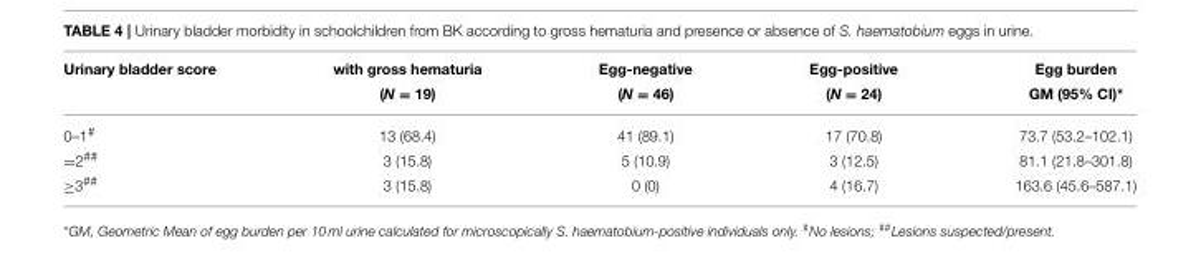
<table><thead><tr><td rowspan="2">Urinary bladder score</td><td rowspan="2">with gross hematuria (N = 19)</td><td rowspan="2">Egg-negative (N = 46)</td><td rowspan="2">Egg-positive (N = 24)</td><td rowspan="2">Egg burden GM (95% CI)*</td></tr><tr></tr></thead><tbody><tr><td>0–1<sup>#</sup></td><td>13 (68.4)</td><td>41 (89.1)</td><td>17 (70.8)</td><td>73.7 (53.2–102.1)</td></tr><tr><td>=2<sup>##</sup></td><td>3 (15.8)</td><td>5 (10.9)</td><td>3 (12.5)</td><td>81.1 (21.8–301.8)</td></tr><tr><td>≥3<sup>##</sup></td><td>3 (15.8)</td><td>0 (0)</td><td>4 (16.7)</td><td>163.6 (45.6–587.1)</td></tr></tbody></table>